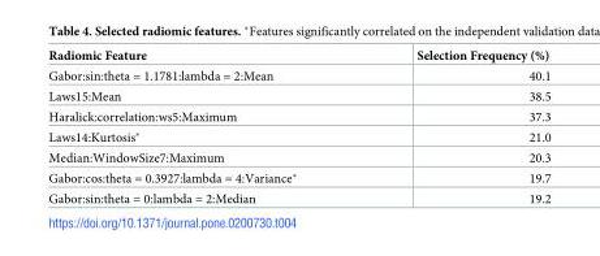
<table><thead><tr><td>Radiomic Feature</td><td>Selection Frequency (%)</td></tr></thead><tbody><tr><td>Gabor:sin:theta = 1.1781:lambda = 2:Mean</td><td>40.1</td></tr><tr><td>Laws15:Mean</td><td>38.5</td></tr><tr><td>Haralick:correlation:ws5:Maximum</td><td>37.3</td></tr><tr><td>Laws14:Kurtosis*</td><td>21.0</td></tr><tr><td>Median:WindowSize7:Maximum</td><td>20.3</td></tr><tr><td>Gabor:cos:theta = 0.3927:lambda = 4:Variance*</td><td>19.7</td></tr><tr><td>Gabor:sin:theta = 0:lambda = 2:Median</td><td>19.2</td></tr></tbody></table>